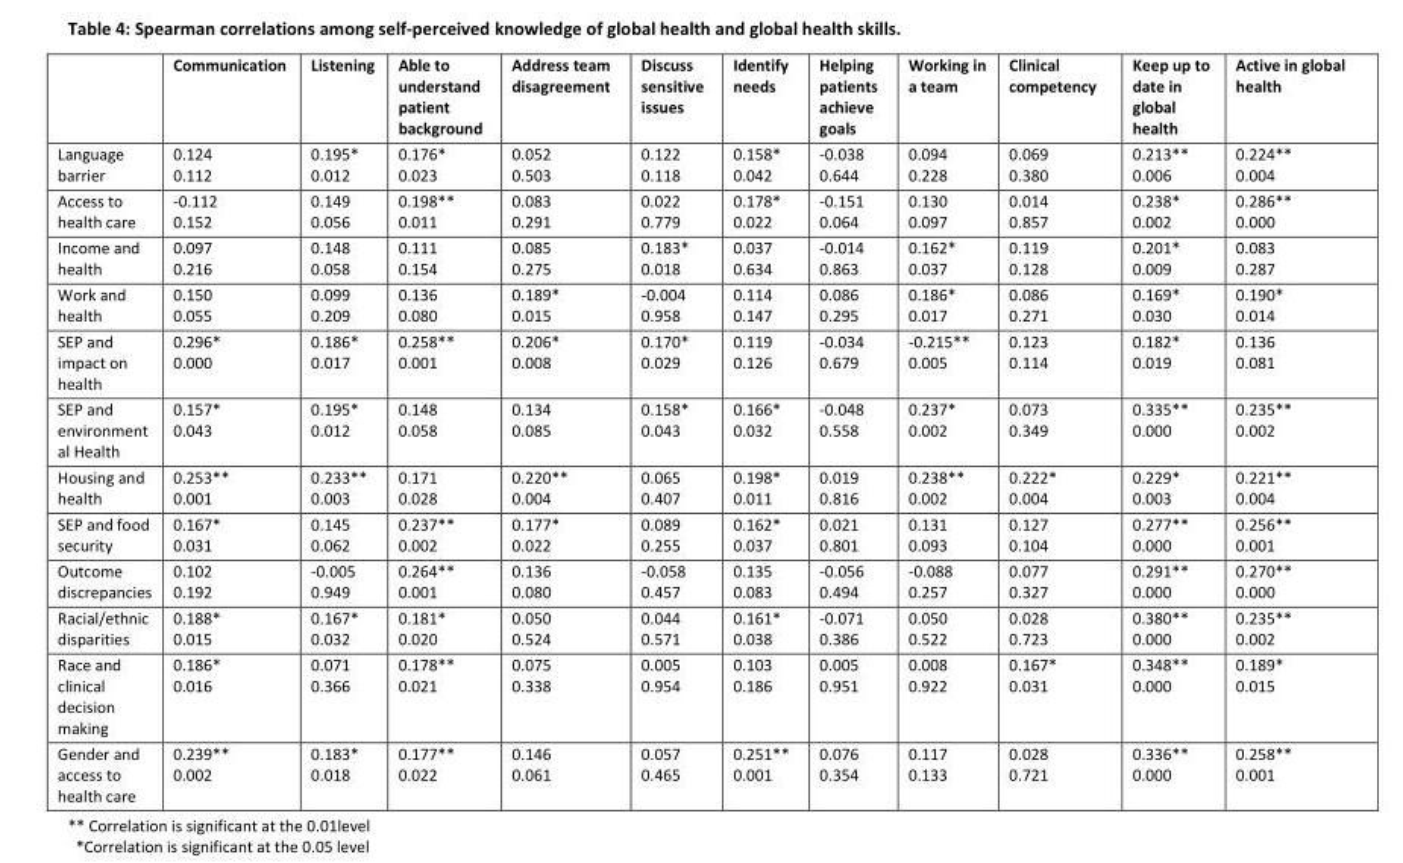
<table><thead><tr><td></td><td>Communication</td><td>Listening</td><td>Able to understand patient background</td><td>Address team disagreement</td><td>Discuss sensitive issues</td><td>Identify needs</td><td>Helping patients achieve goals</td><td>Working in a team</td><td>Clinical competency</td><td>Keep up to date in global health</td><td>Active in global health</td></tr></thead><tbody><tr><td>Language barrier</td><td>0.124 0.112</td><td>0.195* 0.012</td><td>0.176* 0.023</td><td>0.052 0.503</td><td>0.122 0.118</td><td>0.158* 0.042</td><td>-0.038 0.644</td><td>0.094 0.228</td><td>0.069 0.380</td><td>0.213** 0.006</td><td>0.224** 0.004</td></tr><tr><td>Access to health care</td><td>-0.112 0.152</td><td>0.149 0.056</td><td>0.198** 0.011</td><td>0.083 0.291</td><td>0.022 0.779</td><td>0.178* 0.022</td><td>-0.151 0.064</td><td>0.130 0.097</td><td>0.014 0.857</td><td>0.238* 0.002</td><td>0.286** 0.000</td></tr><tr><td>Income and health</td><td>0.097 0.216</td><td>0.148 0.058</td><td>0.111 0.154</td><td>0.085 0.275</td><td>0.183* 0.018</td><td>0.037 0.634</td><td>-0.014 0.863</td><td>0.162* 0.037</td><td>0.119 0.128</td><td>0.201* 0.009</td><td>0.083 0.287</td></tr><tr><td>Work and health</td><td>0.150 0.055</td><td>0.099 0.209</td><td>0.136 0.080</td><td>0.189* 0.015</td><td>-0.004 0.958</td><td>0.114 0.147</td><td>0.086 0.295</td><td>0.186* 0.017</td><td>0.086 0.271</td><td>0.169* 0.030</td><td>0.190* 0.014</td></tr><tr><td>SEP and impact on health</td><td>0.296* 0.000</td><td>0.186* 0.017</td><td>0.258** 0.001</td><td>0.206* 0.008</td><td>0.170* 0.029</td><td>0.119 0.126</td><td>-0.034 0.679</td><td>-0.215** 0.005</td><td>0.123 0.114</td><td>0.182* 0.019</td><td>0.136 0.081</td></tr><tr><td>SEP and environment al Health</td><td>0.157* 0.043</td><td>0.195* 0.012</td><td>0.148 0.058</td><td>0.134 0.085</td><td>0.158* 0.043</td><td>0.166* 0.032</td><td>-0.048 0.558</td><td>0.237* 0.002</td><td>0.073 0.349</td><td>0.335** 0.000</td><td>0.235** 0.002</td></tr><tr><td>Housing and health</td><td>0.253** 0.001</td><td>0.233** 0.003</td><td>0.171 0.028</td><td>0.220** 0.004</td><td>0.065 0.407</td><td>0.198* 0.011</td><td>0.019 0.816</td><td>0.238** 0.002</td><td>0.222* 0.004</td><td>0.229* 0.003</td><td>0.221** 0.004</td></tr><tr><td>SEP and food security</td><td>0.167* 0.031</td><td>0.145 0.062</td><td>0.237** 0.002</td><td>0.177* 0.022</td><td>0.089 0.255</td><td>0.162* 0.037</td><td>0.021 0.801</td><td>0.131 0.093</td><td>0.127 0.104</td><td>0.277** 0.000</td><td>0.256** 0.001</td></tr><tr><td>Outcome discrepancies</td><td>0.102 0.192</td><td>-0.005 0.949</td><td>0.264** 0.001</td><td>0.136 0.080</td><td>-0.058 0.457</td><td>0.135 0.083</td><td>-0.056 0.494</td><td>-0.088 0.257</td><td>0.077 0.327</td><td>0.291** 0.000</td><td>0.270** 0.000</td></tr><tr><td>Racial/ethnic disparities</td><td>0.188* 0.015</td><td>0.167* 0.032</td><td>0.181* 0.020</td><td>0.050 0.524</td><td>0.044 0.571</td><td>0.161* 0.038</td><td>-0.071 0.386</td><td>0.050 0.522</td><td>0.028 0.723</td><td>0.380** 0.000</td><td>0.235** 0.002</td></tr><tr><td>Race and clinical decision making</td><td>0.186* 0.016</td><td>0.071 0.366</td><td>0.178** 0.021</td><td>0.075 0.338</td><td>0.005 0.954</td><td>0.103 0.186</td><td>0.005 0.951</td><td>0.008 0.922</td><td>0.167* 0.031</td><td>0.348** 0.000</td><td>0.189* 0.015</td></tr><tr><td>Gender and access to health care</td><td>0.239** 0.002</td><td>0.183* 0.018</td><td>0.177** 0.022</td><td>0.146 0.061</td><td>0.057 0.465</td><td>0.251** 0.001</td><td>0.076 0.354</td><td>0.117 0.133</td><td>0.028 0.721</td><td>0.336** 0.000</td><td>0.258** 0.001</td></tr></tbody></table>